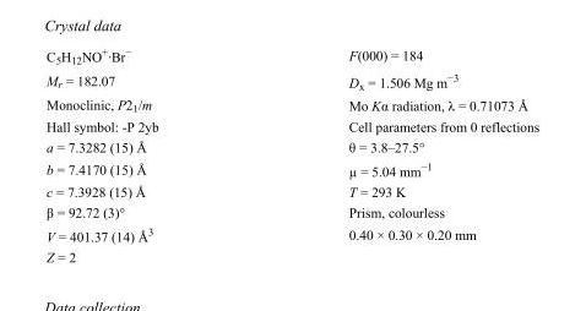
<table><tbody><tr><td>C<sub>5</sub>H<sub>12</sub>NO<sup>+</sup>·Br<sup>−</sup></td><td>F(000) = 184</td></tr><tr><td>M<sub>r</sub> = 182.07</td><td>D<sub>x</sub> = 1.506 Mg m<sup>−3</sup></td></tr><tr><td>Monoclinic, P2<sub>1</sub>/m</td><td>Mo Kα radiation, λ = 0.71073 Å</td></tr><tr><td>Hall symbol: -P 2yb</td><td>Cell parameters from 0 reflections</td></tr><tr><td>a = 7.3282 (15) Å</td><td>θ = 3.8–27.5°</td></tr><tr><td>b = 7.4170 (15) Å</td><td>µ = 5.04 mm<sup>−1</sup></td></tr><tr><td>c = 7.3928 (15) Å</td><td>T = 293 K</td></tr><tr><td>β = 92.72 (3)°</td><td>Prism, colourless</td></tr><tr><td>V = 401.37 (14) Å<sup>3</sup></td><td>0.40 × 0.30 × 0.20 mm</td></tr><tr><td>Z = 2</td><td></td></tr></tbody></table>